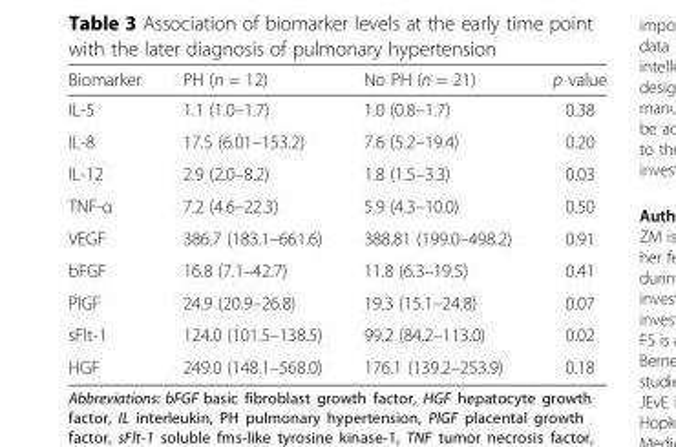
<table><thead><tr><td>Biomarker</td><td>PH (n = 12)</td><td>No PH (n = 21)</td><td>p value</td></tr></thead><tbody><tr><td>IL-5</td><td>1.1 (1.0–1.7)</td><td>1.0 (0.8–1.7)</td><td>0.38</td></tr><tr><td>IL-8</td><td>17.5 (6.01–153.2)</td><td>7.6 (5.2–19.4)</td><td>0.20</td></tr><tr><td>IL-12</td><td>2.9 (2.0–8.2)</td><td>1.8 (1.5–3.3)</td><td>0.03</td></tr><tr><td>TNF-α</td><td>7.2 (4.6–22.3)</td><td>5.9 (4.3–10.0)</td><td>0.50</td></tr><tr><td>VEGF</td><td>386.7 (183.1–661.6)</td><td>388.81 (199.0–498.2)</td><td>0.91</td></tr><tr><td>bFGF</td><td>16.8 (7.1–42.7)</td><td>11.8 (6.3–19.5)</td><td>0.41</td></tr><tr><td>PlGF</td><td>24.9 (20.9–26.8)</td><td>19.3 (15.1–24.8)</td><td>0.07</td></tr><tr><td>sFlt-1</td><td>124.0 (101.5–138.5)</td><td>99.2 (84.2–113.0)</td><td>0.02</td></tr><tr><td>HGF</td><td>249.0 (148.1–568.0)</td><td>176.1 (139.2–253.9)</td><td>0.18</td></tr></tbody></table>